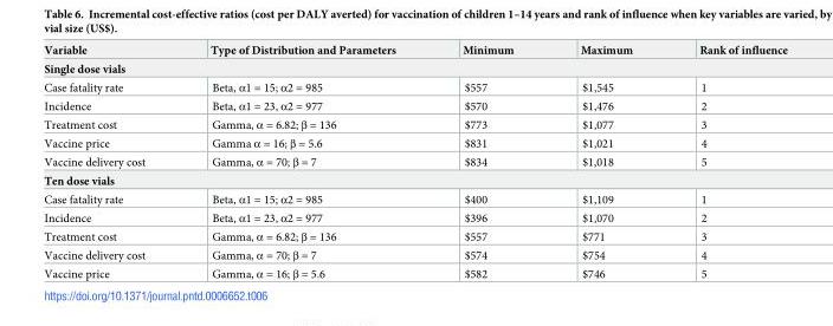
<table><thead><tr><td>Variable</td><td>Type of Distribution and Parameters</td><td>Minimum</td><td>Maximum</td><td>Rank of influence</td></tr></thead><tbody><tr><td colspan="5">Single dose vials</td></tr><tr><td>Case fatality rate</td><td>Beta, α1 = 15; α2 = 985</td><td>$557</td><td>$1,545</td><td>1</td></tr><tr><td>Incidence</td><td>Beta, α1 = 23, α2 = 977</td><td>$570</td><td>$1,476</td><td>2</td></tr><tr><td>Treatment cost</td><td>Gamma, α = 6.82; β = 136</td><td>$773</td><td>$1,077</td><td>3</td></tr><tr><td>Vaccine price</td><td>Gamma α = 16; β = 5.6</td><td>$831</td><td>$1,021</td><td>4</td></tr><tr><td>Vaccine delivery cost</td><td>Gamma, α = 70; β = 7</td><td>$834</td><td>$1,018</td><td>5</td></tr><tr><td colspan="5">Ten dose vials</td></tr><tr><td>Case fatality rate</td><td>Beta, α1 = 15; α2 = 985</td><td>$400</td><td>$1,109</td><td>1</td></tr><tr><td>Incidence</td><td>Beta, α1 = 23, α2 = 977</td><td>$396</td><td>$1,070</td><td>2</td></tr><tr><td>Treatment cost</td><td>Gamma, α = 6.82; β = 136</td><td>$557</td><td>$771</td><td>3</td></tr><tr><td>Vaccine delivery cost</td><td>Gamma, α = 70; β = 7</td><td>$574</td><td>$754</td><td>4</td></tr><tr><td>Vaccine price</td><td>Gamma, α = 16; β = 5.6</td><td>$582</td><td>$746</td><td>5</td></tr></tbody></table>